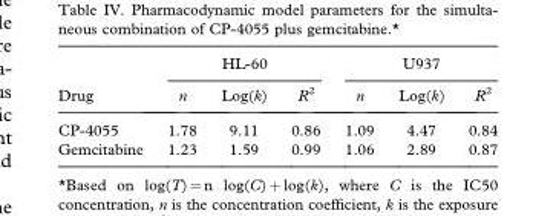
<table><thead><tr><td rowspan="2">Drug</td><td colspan="3">HL-60</td><td colspan="3">U937</td></tr><tr><td>n</td><td>Log(k)</td><td>R<sup>2</sup></td><td>n</td><td>Log(k)</td><td>R<sup>2</sup></td></tr></thead><tbody><tr><td>CP-4055</td><td>1.78</td><td>9.11</td><td>0.86</td><td>1.09</td><td>4.47</td><td>0.84</td></tr><tr><td>Gemcitabine</td><td>1.23</td><td>1.59</td><td>0.99</td><td>1.06</td><td>2.89</td><td>0.87</td></tr></tbody></table>